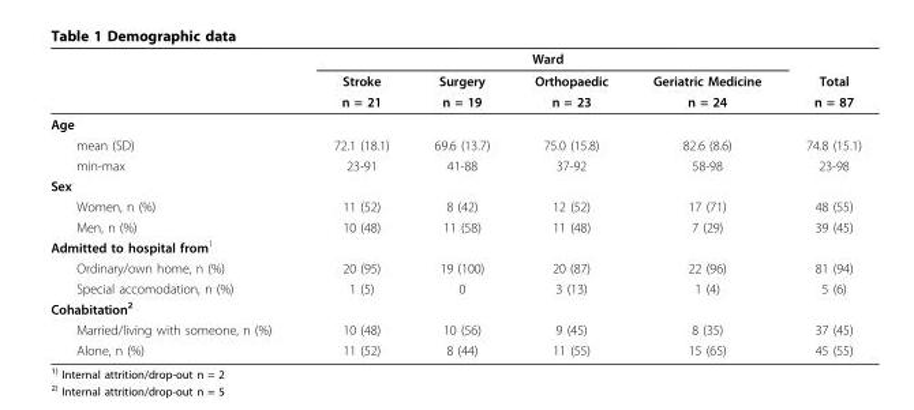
<table><thead><tr><td rowspan="3"></td><td colspan="4">Ward</td><td rowspan="3">Total n = 87</td></tr><tr><td rowspan="2">Stroke n = 21</td><td rowspan="2">Surgery n = 19</td><td rowspan="2">Orthopaedic n = 23</td><td rowspan="2">Geriatric Medicine n = 24</td></tr><tr></tr></thead><tbody><tr><td colspan="6">Age</td></tr><tr><td>mean (SD)</td><td>72.1 (18.1)</td><td>69.6 (13.7)</td><td>75.0 (15.8)</td><td>82.6 (8.6)</td><td>74.8 (15.1)</td></tr><tr><td>min-max</td><td>23-91</td><td>41-88</td><td>37-92</td><td>58-98</td><td>23-98</td></tr><tr><td colspan="6">Sex</td></tr><tr><td>Women, n (%)</td><td>11 (52)</td><td>8 (42)</td><td>12 (52)</td><td>17 (71)</td><td>48 (55)</td></tr><tr><td>Men, n (%)</td><td>10 (48)</td><td>11 (58)</td><td>11 (48)</td><td>7 (29)</td><td>39 (45)</td></tr><tr><td colspan="6">Admitted to hospital from<sup>1</sup></td></tr><tr><td>Ordinary/own home, n (%)</td><td>20 (95)</td><td>19 (100)</td><td>20 (87)</td><td>22 (96)</td><td>81 (94)</td></tr><tr><td>Special accomodation, n (%)</td><td>1 (5)</td><td>0</td><td>3 (13)</td><td>1 (4)</td><td>5 (6)</td></tr><tr><td colspan="6">Cohabitation<sup>2</sup></td></tr><tr><td>Married/living with someone, n (%)</td><td>10 (48)</td><td>10 (56)</td><td>9 (45)</td><td>8 (35)</td><td>37 (45)</td></tr><tr><td>Alone, n (%)</td><td>11 (52)</td><td>8 (44)</td><td>11 (55)</td><td>15 (65)</td><td>45 (55)</td></tr></tbody></table>